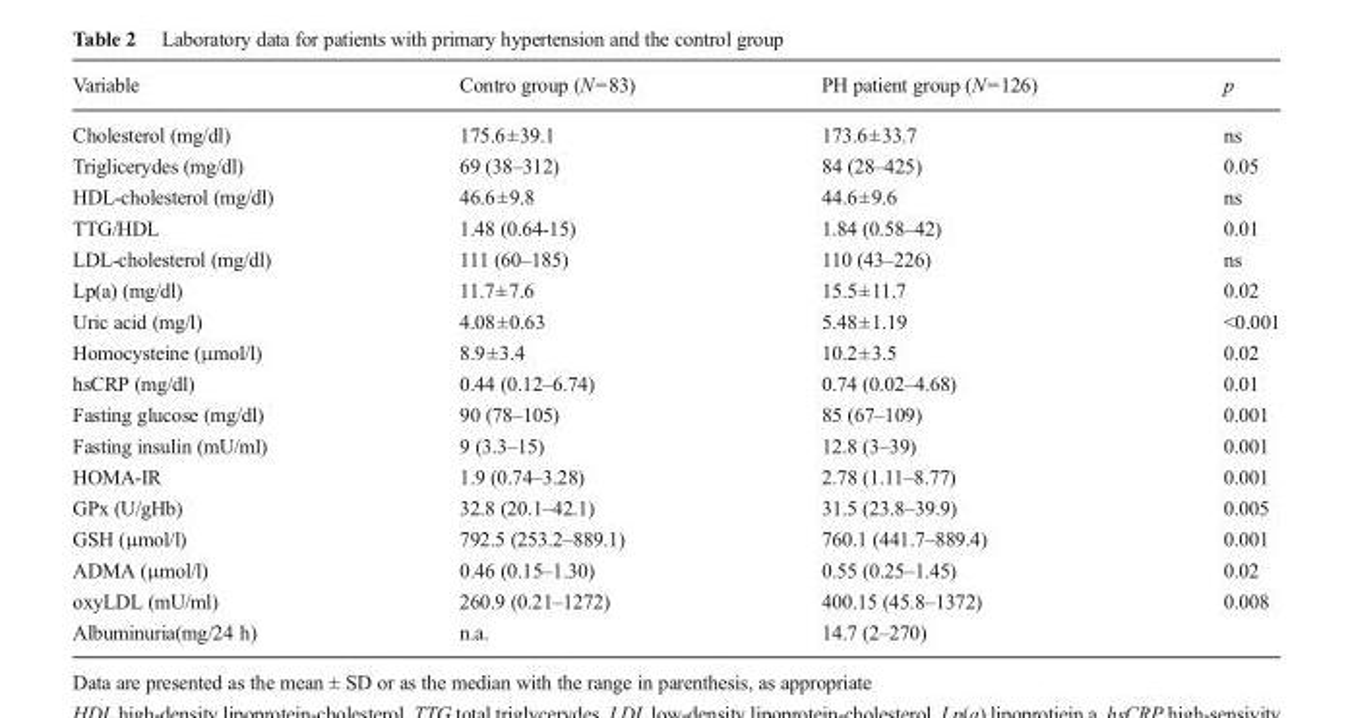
<table><thead><tr><td>Variable</td><td>Contro group (N=83)</td><td>PH patient group (N=126)</td><td>p</td></tr></thead><tbody><tr><td>Cholesterol (mg/dl)</td><td>175.6±39.1</td><td>173.6±33.7</td><td>ns</td></tr><tr><td>Triglicerydes (mg/dl)</td><td>69 (38–312)</td><td>84 (28–425)</td><td>0.05</td></tr><tr><td>HDL-cholesterol (mg/dl)</td><td>46.6±9.8</td><td>44.6±9.6</td><td>ns</td></tr><tr><td>TTG/HDL</td><td>1.48 (0.64-15)</td><td>1.84 (0.58–42)</td><td>0.01</td></tr><tr><td>LDL-cholesterol (mg/dl)</td><td>111 (60–185)</td><td>110 (43–226)</td><td>ns</td></tr><tr><td>Lp(a) (mg/dl)</td><td>11.7±7.6</td><td>15.5±11.7</td><td>0.02</td></tr><tr><td>Uric acid (mg/l)</td><td>4.08±0.63</td><td>5.48±1.19</td><td>&lt;0.001</td></tr><tr><td>Homocysteine (μmol/l)</td><td>8.9±3.4</td><td>10.2±3.5</td><td>0.02</td></tr><tr><td>hsCRP (mg/dl)</td><td>0.44 (0.12–6.74)</td><td>0.74 (0.02–4.68)</td><td>0.01</td></tr><tr><td>Fasting glucose (mg/dl)</td><td>90 (78–105)</td><td>85 (67–109)</td><td>0.001</td></tr><tr><td>Fasting insulin (mU/ml)</td><td>9 (3.3–15)</td><td>12.8 (3–39)</td><td>0.001</td></tr><tr><td>HOMA-IR</td><td>1.9 (0.74–3.28)</td><td>2.78 (1.11–8.77)</td><td>0.001</td></tr><tr><td>GPx (U/gHb)</td><td>32.8 (20.1–42.1)</td><td>31.5 (23.8–39.9)</td><td>0.005</td></tr><tr><td>GSH (μmol/l)</td><td>792.5 (253.2–889.1)</td><td>760.1 (441.7–889.4)</td><td>0.001</td></tr><tr><td>ADMA (μmol/l)</td><td>0.46 (0.15–1.30)</td><td>0.55 (0.25–1.45)</td><td>0.02</td></tr><tr><td>oxyLDL (mU/ml)</td><td>260.9 (0.21–1272)</td><td>400.15 (45.8–1372)</td><td>0.008</td></tr><tr><td>Albuminuria(mg/24 h)</td><td>n.a.</td><td>14.7 (2–270)</td><td></td></tr></tbody></table>